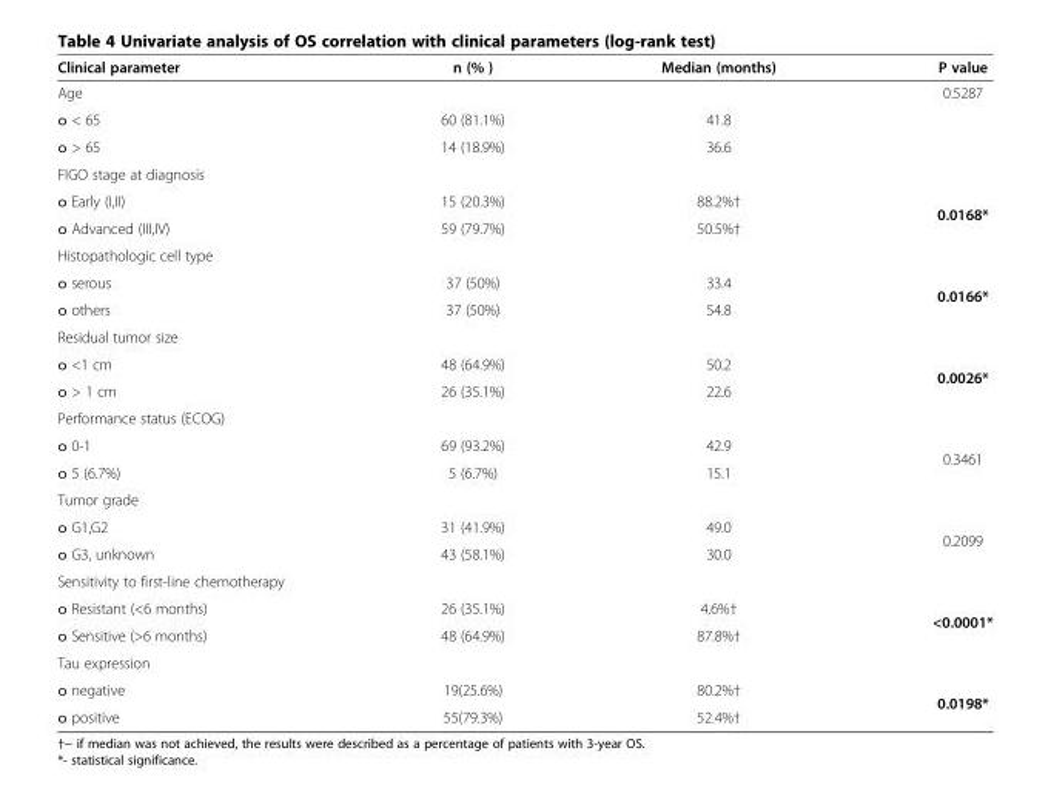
<table><thead><tr><td>Clinical parameter</td><td>n (% )</td><td>Median (months)</td><td>P value</td></tr></thead><tbody><tr><td>Age</td><td></td><td></td><td>0.5287</td></tr><tr><td>o &lt; 65</td><td>60 (81.1%)</td><td>41.8</td><td rowspan="2"></td></tr><tr><td>o &gt; 65</td><td>14 (18.9%)</td><td>36.6</td></tr><tr><td colspan="4">FIGO stage at diagnosis</td></tr><tr><td>o Early (I,II)</td><td>15 (20.3%)</td><td>88.2%†</td><td rowspan="2">0.0168*</td></tr><tr><td>o Advanced (III,IV)</td><td>59 (79.7%)</td><td>50.5%†</td></tr><tr><td colspan="4">Histopathologic cell type</td></tr><tr><td>o serous</td><td>37 (50%)</td><td>33.4</td><td rowspan="2">0.0166*</td></tr><tr><td>o others</td><td>37 (50%)</td><td>54.8</td></tr><tr><td colspan="4">Residual tumor size</td></tr><tr><td>o &lt;1 cm</td><td>48 (64.9%)</td><td>50.2</td><td rowspan="2">0.0026*</td></tr><tr><td>o &gt; 1 cm</td><td>26 (35.1%)</td><td>22.6</td></tr><tr><td colspan="4">Performance status (ECOG)</td></tr><tr><td>o 0-1</td><td>69 (93.2%)</td><td>42.9</td><td rowspan="2">0.3461</td></tr><tr><td>o 5 (6.7%)</td><td>5 (6.7%)</td><td>15.1</td></tr><tr><td colspan="4">Tumor grade</td></tr><tr><td>o G1,G2</td><td>31 (41.9%)</td><td>49.0</td><td rowspan="2">0.2099</td></tr><tr><td>o G3, unknown</td><td>43 (58.1%)</td><td>30.0</td></tr><tr><td colspan="4">Sensitivity to first-line chemotherapy</td></tr><tr><td>o Resistant (&lt;6 months)</td><td>26 (35.1%)</td><td>4.6%†</td><td rowspan="2">&lt;0.0001*</td></tr><tr><td>o Sensitive (&gt;6 months)</td><td>48 (64.9%)</td><td>87.8%†</td></tr><tr><td colspan="4">Tau expression</td></tr><tr><td>o negative</td><td>19(25.6%)</td><td>80.2%†</td><td rowspan="2">0.0198*</td></tr><tr><td>o positive</td><td>55(79.3%)</td><td>52.4%†</td></tr></tbody></table>